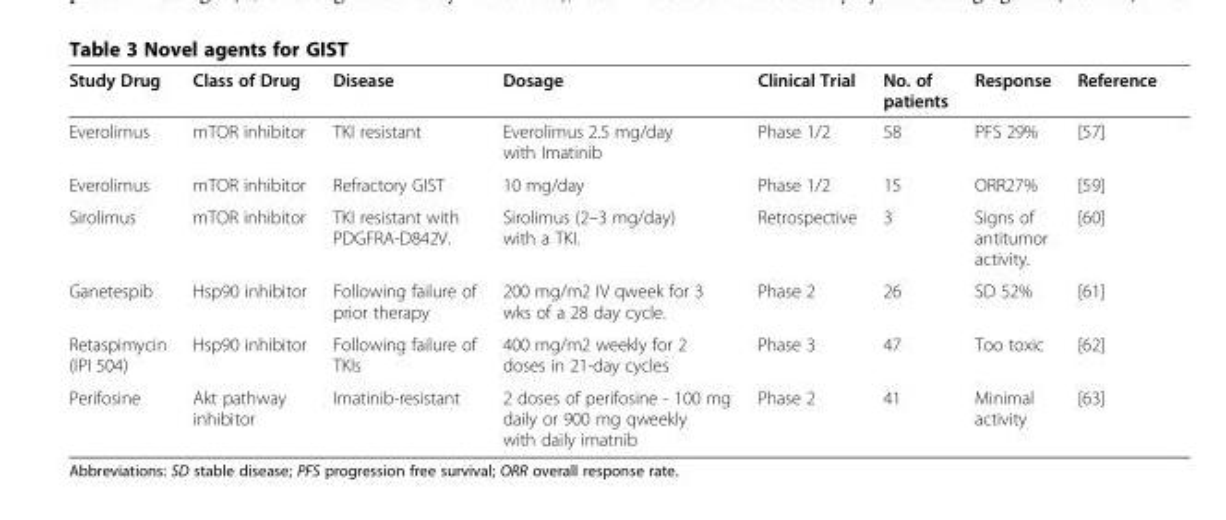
<table><thead><tr><td>Study Drug</td><td>Class of Drug</td><td>Disease</td><td>Dosage</td><td>Clinical Trial</td><td>No. of patients</td><td>Response</td><td>Reference</td></tr></thead><tbody><tr><td>Everolimus</td><td>mTOR inhibitor</td><td>TKI resistant</td><td>Everolimus 2.5 mg/day with Imatinib</td><td>Phase 1/2</td><td>58</td><td>PFS 29%</td><td>[57]</td></tr><tr><td>Everolimus</td><td>mTOR inhibitor</td><td>Refractory GIST</td><td>10 mg/day</td><td>Phase 1/2</td><td>15</td><td>ORR27%</td><td>[59]</td></tr><tr><td>Sirolimus</td><td>mTOR inhibitor</td><td>TKI resistant with PDGFRA-D842V.</td><td>Sirolimus (2–3 mg/day) with a TKI.</td><td>Retrospective</td><td>3</td><td>Signs of antitumor activity.</td><td>[60]</td></tr><tr><td>Ganetespib</td><td>Hsp90 inhibitor</td><td>Following failure of prior therapy</td><td>200 mg/m2 IV qweek for 3 wks of a 28 day cycle.</td><td>Phase 2</td><td>26</td><td>SD 52%</td><td>[61]</td></tr><tr><td>Retaspimycin (IPI 504)</td><td>Hsp90 inhibitor</td><td>Following failure of TKIs</td><td>400 mg/m2 weekly for 2 doses in 21-day cycles</td><td>Phase 3</td><td>47</td><td>Too toxic</td><td>[62]</td></tr><tr><td>Perifosine</td><td>Akt pathway inhibitor</td><td>Imatinib-resistant</td><td>2 doses of perifosine - 100 mg daily or 900 mg qweekly with daily imatnib</td><td>Phase 2</td><td>41</td><td>Minimal activity</td><td>[63]</td></tr></tbody></table>